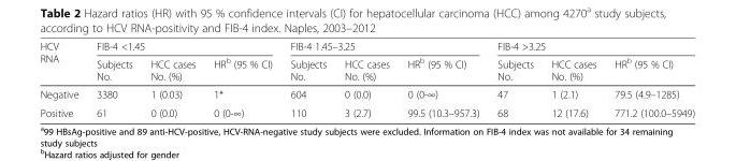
<table><thead><tr><td rowspan="2">HCV RNA</td><td colspan="3">FIB-4 &lt;1.45</td><td colspan="3">FIB-4 1.45–3.25</td><td colspan="3">FIB-4 &gt;3.25</td></tr><tr><td>Subjects No.</td><td>HCC cases No. (%)</td><td>HR<sup>b</sup> (95 % CI)</td><td>Subjects No.</td><td>HCC cases No. (%)</td><td>HR<sup>b</sup> (95 % CI)</td><td>Subjects No.</td><td>HCC cases No. (%)</td><td>HR<sup>b</sup> (95 % CI)</td></tr></thead><tbody><tr><td>Negative</td><td>3380</td><td>1 (0.03)</td><td>1*</td><td>604</td><td>0 (0.0)</td><td>0 (0-∞)</td><td>47</td><td>1 (2.1)</td><td>79.5 (4.9–1285)</td></tr><tr><td>Positive</td><td>61</td><td>0 (0.0)</td><td>0 (0-∞)</td><td>110</td><td>3 (2.7)</td><td>99.5 (10.3–957.3)</td><td>68</td><td>12 (17.6)</td><td>771.2 (100.0–5949)</td></tr></tbody></table>